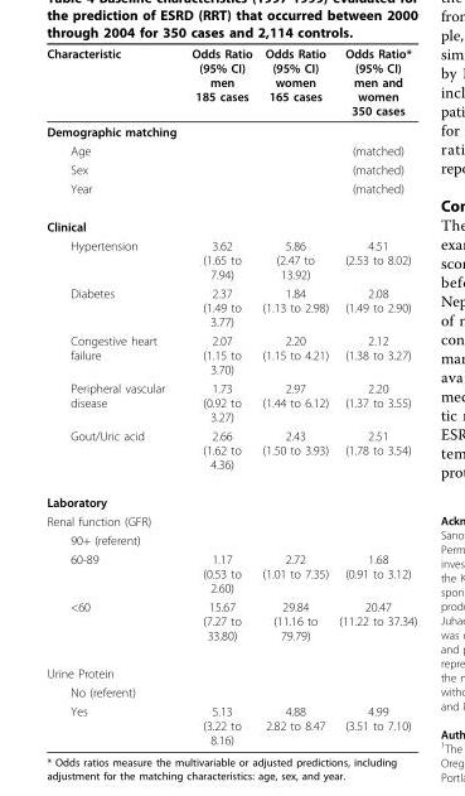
<table><thead><tr><td>Characteristic</td><td>Odds Ratio (95% CI) men 185 cases</td><td>Odds Ratio (95% CI) women 165 cases</td><td>Odds Ratio* (95% CI) men and women 350 cases</td></tr></thead><tbody><tr><td colspan="4">Demographic matching</td></tr><tr><td>Age</td><td></td><td></td><td>(matched)</td></tr><tr><td>Sex</td><td></td><td></td><td>(matched)</td></tr><tr><td>Year</td><td></td><td></td><td>(matched)</td></tr><tr><td colspan="4">Clinical</td></tr><tr><td>Hypertension</td><td>3.62 (1.65 to 7.94)</td><td>5.86 (2.47 to 13.92)</td><td>4.51 (2.53 to 8.02)</td></tr><tr><td>Diabetes</td><td>2.37 (1.49 to 3.77)</td><td>1.84 (1.13 to 2.98)</td><td>2.08 (1.49 to 2.90)</td></tr><tr><td>Congestive heart failure</td><td>2.07 (1.15 to 3.70)</td><td>2.20 (1.15 to 4.21)</td><td>2.12 (1.38 to 3.27)</td></tr><tr><td>Peripheral vascular disease</td><td>1.73 (0.92 to 3.27)</td><td>2.97 (1.44 to 6.12)</td><td>2.20 (1.37 to 3.55)</td></tr><tr><td>Gout/Uric acid</td><td>2.66 (1.62 to 4.36)</td><td>2.43 (1.50 to 3.93)</td><td>2.51 (1.78 to 3.54)</td></tr><tr><td colspan="4">Laboratory</td></tr><tr><td colspan="4">Renal function (GFR)</td></tr><tr><td colspan="4">90+ (referent)</td></tr><tr><td>60-89</td><td>1.17 (0.53 to 2.60)</td><td>2.72 (1.01 to 7.35)</td><td>1.68 (0.91 to 3.12)</td></tr><tr><td>&lt;60</td><td>15.67 (7.27 to 33.80)</td><td>29.84 (11.16 to 79.79)</td><td>20.47 (11.22 to 37.34)</td></tr><tr><td colspan="4">Urine Protein</td></tr><tr><td colspan="4">No (referent)</td></tr><tr><td>Yes</td><td>5.13 (3.22 to 8.16)</td><td>4.88 2.82 to 8.47</td><td>4.99 (3.51 to 7.10)</td></tr></tbody></table>